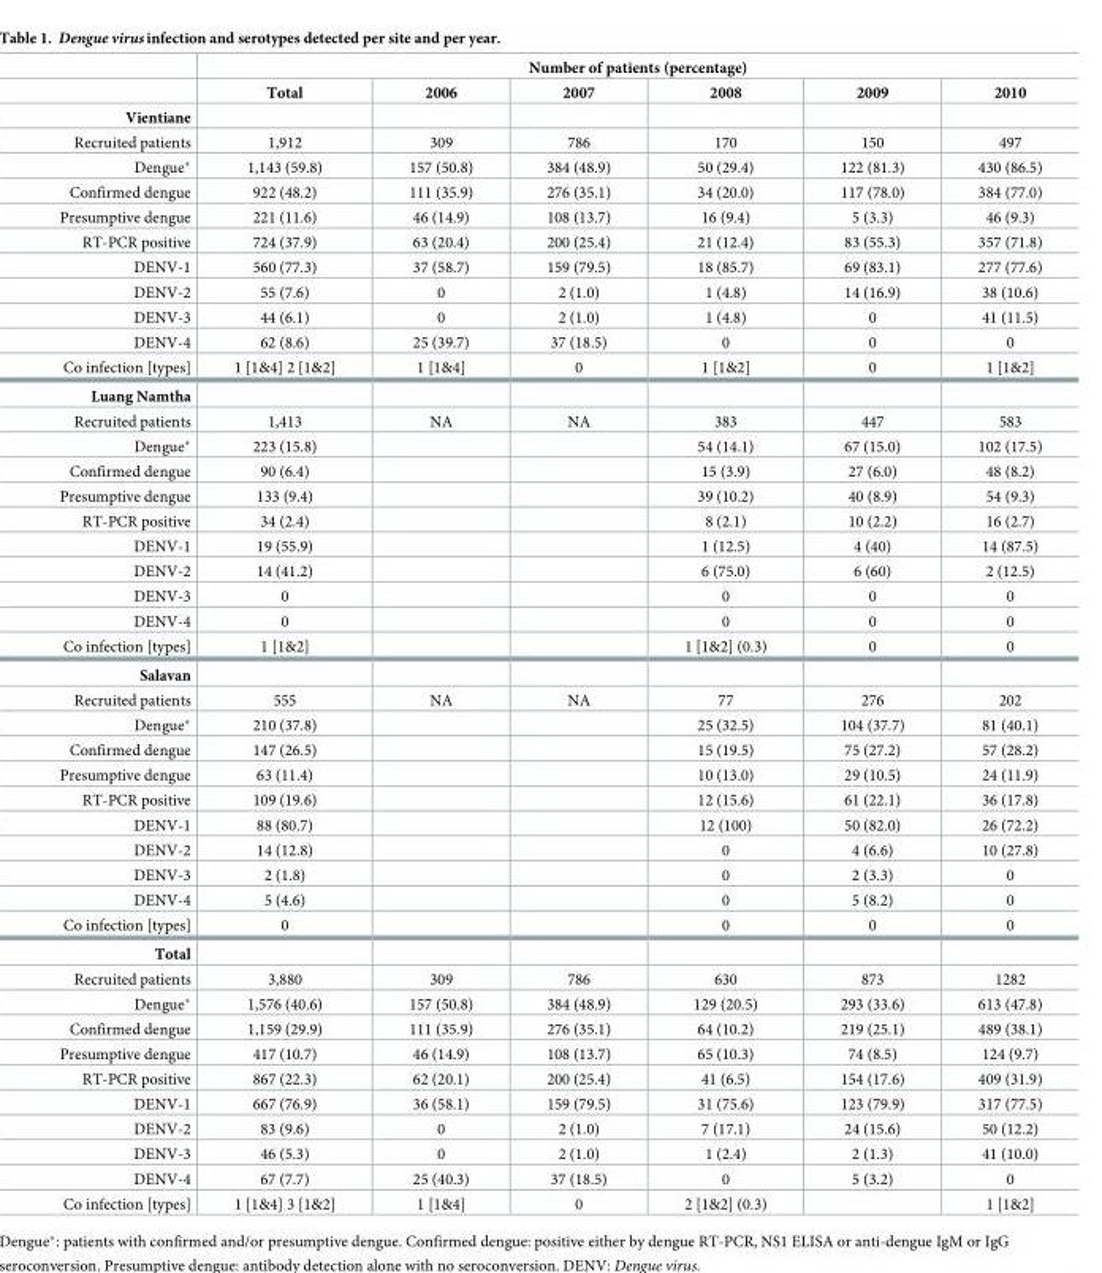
<table><thead><tr><td rowspan="2"></td><td colspan="6">Number of patients (percentage)</td></tr><tr><td>Total</td><td>2006</td><td>2007</td><td>2008</td><td>2009</td><td>2010</td></tr></thead><tbody><tr><td colspan="7">Vientiane</td></tr><tr><td>Recruited patients</td><td>1,912</td><td>309</td><td>786</td><td>170</td><td>150</td><td>497</td></tr><tr><td>Dengue*</td><td>1,143 (59.8)</td><td>157 (50.8)</td><td>384 (48.9)</td><td>50 (29.4)</td><td>122 (81.3)</td><td>430 (86.5)</td></tr><tr><td>Confirmed dengue</td><td>922 (48.2)</td><td>111 (35.9)</td><td>276 (35.1)</td><td>34 (20.0)</td><td>117 (78.0)</td><td>384 (77.0)</td></tr><tr><td>Presumptive dengue</td><td>221 (11.6)</td><td>46 (14.9)</td><td>108 (13.7)</td><td>16 (9.4)</td><td>5 (3.3)</td><td>46 (9.3)</td></tr><tr><td>RT-PCR positive</td><td>724 (37.9)</td><td>63 (20.4)</td><td>200 (25.4)</td><td>21 (12.4)</td><td>83 (55.3)</td><td>357 (71.8)</td></tr><tr><td>DENV-1</td><td>560 (77.3)</td><td>37 (58.7)</td><td>159 (79.5)</td><td>18 (85.7)</td><td>69 (83.1)</td><td>277 (77.6)</td></tr><tr><td>DENV-2</td><td>55 (7.6)</td><td>0</td><td>2 (1.0)</td><td>1 (4.8)</td><td>14 (16.9)</td><td>38 (10.6)</td></tr><tr><td>DENV-3</td><td>44 (6.1)</td><td>0</td><td>2 (1.0)</td><td>1 (4.8)</td><td>0</td><td>41 (11.5)</td></tr><tr><td>DENV-4</td><td>62 (8.6)</td><td>25 (39.7)</td><td>37 (18.5)</td><td>0</td><td>0</td><td>0</td></tr><tr><td>Co infection [types]</td><td>1 [1&amp;4] 2 [1&amp;2]</td><td>1 [1&amp;4]</td><td>0</td><td>1 [1&amp;2]</td><td>0</td><td>1 [1&amp;2]</td></tr><tr><td colspan="7">Luang Namtha</td></tr><tr><td>Recruited patients</td><td>1,413</td><td>NA</td><td>NA</td><td>383</td><td>447</td><td>583</td></tr><tr><td>Dengue*</td><td>223 (15.8)</td><td></td><td></td><td>54 (14.1)</td><td>67 (15.0)</td><td>102 (17.5)</td></tr><tr><td>Confirmed dengue</td><td>90 (6.4)</td><td></td><td></td><td>15 (3.9)</td><td>27 (6.0)</td><td>48 (8.2)</td></tr><tr><td>Presumptive dengue</td><td>133 (9.4)</td><td></td><td></td><td>39 (10.2)</td><td>40 (8.9)</td><td>54 (9.3)</td></tr><tr><td>RT-PCR positive</td><td>34 (2.4)</td><td></td><td></td><td>8 (2.1)</td><td>10 (2.2)</td><td>16 (2.7)</td></tr><tr><td>DENV-1</td><td>19 (55.9)</td><td></td><td></td><td>1 (12.5)</td><td>4 (40)</td><td>14 (87.5)</td></tr><tr><td>DENV-2</td><td>14 (41.2)</td><td></td><td></td><td>6 (75.0)</td><td>6 (60)</td><td>2 (12.5)</td></tr><tr><td>DENV-3</td><td>0</td><td></td><td></td><td>0</td><td>0</td><td>0</td></tr><tr><td>DENV-4</td><td>0</td><td></td><td></td><td>0</td><td>0</td><td>0</td></tr><tr><td>Co infection [types]</td><td>1 [1&amp;2]</td><td></td><td></td><td>1 [1&amp;2] (0.3)</td><td>0</td><td>0</td></tr><tr><td colspan="7">Salavan</td></tr><tr><td>Recruited patients</td><td>555</td><td>NA</td><td>NA</td><td>77</td><td>276</td><td>202</td></tr><tr><td>Dengue*</td><td>210 (37.8)</td><td></td><td></td><td>25 (32.5)</td><td>104 (37.7)</td><td>81 (40.1)</td></tr><tr><td>Confirmed dengue</td><td>147 (26.5)</td><td></td><td></td><td>15 (19.5)</td><td>75 (27.2)</td><td>57 (28.2)</td></tr><tr><td>Presumptive dengue</td><td>63 (11.4)</td><td></td><td></td><td>10 (13.0)</td><td>29 (10.5)</td><td>24 (11.9)</td></tr><tr><td>RT-PCR positive</td><td>109 (19.6)</td><td></td><td></td><td>12 (15.6)</td><td>61 (22.1)</td><td>36 (17.8)</td></tr><tr><td>DENV-1</td><td>88 (80.7)</td><td></td><td></td><td>12 (100)</td><td>50 (82.0)</td><td>26 (72.2)</td></tr><tr><td>DENV-2</td><td>14 (12.8)</td><td></td><td></td><td>0</td><td>4 (6.6)</td><td>10 (27.8)</td></tr><tr><td>DENV-3</td><td>2 (1.8)</td><td></td><td></td><td>0</td><td>2 (3.3)</td><td>0</td></tr><tr><td>DENV-4</td><td>5 (4.6)</td><td></td><td></td><td>0</td><td>5 (8.2)</td><td>0</td></tr><tr><td>Co infection [types]</td><td>0</td><td></td><td></td><td>0</td><td>0</td><td>0</td></tr><tr><td colspan="7">Total</td></tr><tr><td>Recruited patients</td><td>3,880</td><td>309</td><td>786</td><td>630</td><td>873</td><td>1282</td></tr><tr><td>Dengue*</td><td>1,576 (40.6)</td><td>157 (50.8)</td><td>384 (48.9)</td><td>129 (20.5)</td><td>293 (33.6)</td><td>613 (47.8)</td></tr><tr><td>Confirmed dengue</td><td>1,159 (29.9)</td><td>111 (35.9)</td><td>276 (35.1)</td><td>64 (10.2)</td><td>219 (25.1)</td><td>489 (38.1)</td></tr><tr><td>Presumptive dengue</td><td>417 (10.7)</td><td>46 (14.9)</td><td>108 (13.7)</td><td>65 (10.3)</td><td>74 (8.5)</td><td>124 (9.7)</td></tr><tr><td>RT-PCR positive</td><td>867 (22.3)</td><td>62 (20.1)</td><td>200 (25.4)</td><td>41 (6.5)</td><td>154 (17.6)</td><td>409 (31.9)</td></tr><tr><td>DENV-1</td><td>667 (76.9)</td><td>36 (58.1)</td><td>159 (79.5)</td><td>31 (75.6)</td><td>123 (79.9)</td><td>317 (77.5)</td></tr><tr><td>DENV-2</td><td>83 (9.6)</td><td>0</td><td>2 (1.0)</td><td>7 (17.1)</td><td>24 (15.6)</td><td>50 (12.2)</td></tr><tr><td>DENV-3</td><td>46 (5.3)</td><td>0</td><td>2 (1.0)</td><td>1 (2.4)</td><td>2 (1.3)</td><td>41 (10.0)</td></tr><tr><td>DENV-4</td><td>67 (7.7)</td><td>25 (40.3)</td><td>37 (18.5)</td><td>0</td><td>5 (3.2)</td><td>0</td></tr><tr><td>Co infection [types]</td><td>1 [1&amp;4] 3 [1&amp;2]</td><td>1 [1&amp;4]</td><td>0</td><td>2 [1&amp;2] (0.3)</td><td></td><td>1 [1&amp;2]</td></tr></tbody></table>